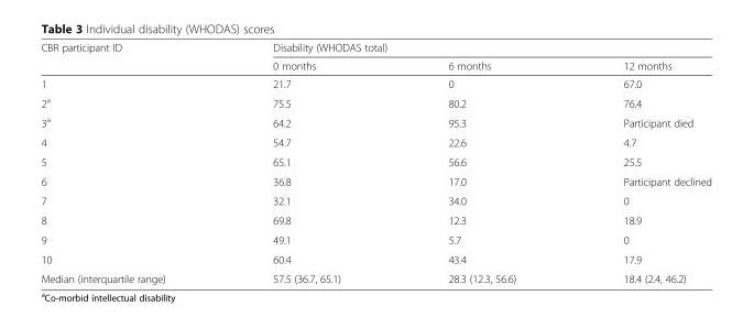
<table><thead><tr><td rowspan="2">CBR participant ID</td><td colspan="3">Disability (WHODAS total)</td></tr><tr><td>0 months</td><td>6 months</td><td>12 months</td></tr></thead><tbody><tr><td>1</td><td>21.7</td><td>0</td><td>67.0</td></tr><tr><td>2<sup>a</sup></td><td>75.5</td><td>80.2</td><td>76.4</td></tr><tr><td>3<sup>a</sup></td><td>64.2</td><td>95.3</td><td>Participant died</td></tr><tr><td>4</td><td>54.7</td><td>22.6</td><td>4.7</td></tr><tr><td>5</td><td>65.1</td><td>56.6</td><td>25.5</td></tr><tr><td>6</td><td>36.8</td><td>17.0</td><td>Participant declined</td></tr><tr><td>7</td><td>32.1</td><td>34.0</td><td>0</td></tr><tr><td>8</td><td>69.8</td><td>12.3</td><td>18.9</td></tr><tr><td>9</td><td>49.1</td><td>5.7</td><td>0</td></tr><tr><td>10</td><td>60.4</td><td>43.4</td><td>17.9</td></tr><tr><td>Median (interquartile range)</td><td>57.5 (36.7, 65.1)</td><td>28.3 (12.3, 56.6)</td><td>18.4 (2.4, 46.2)</td></tr></tbody></table>